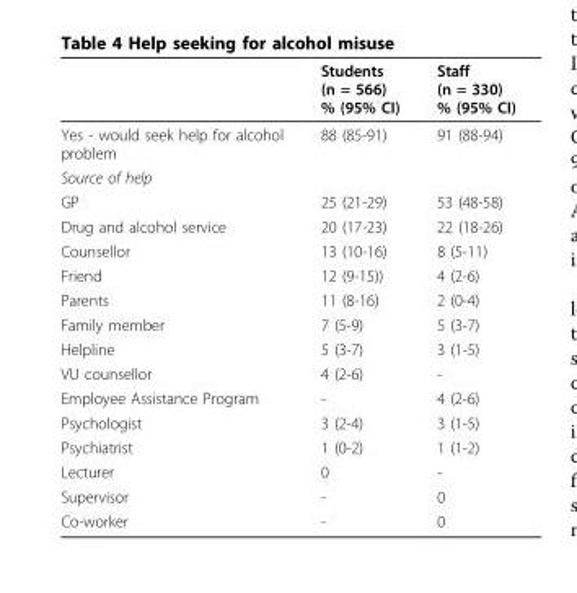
<table><thead><tr><td></td><td>Students (n = 566) % (95% CI)</td><td>Staff (n = 330) % (95% CI)</td></tr></thead><tbody><tr><td>Yes - would seek help for alcohol problem</td><td>88 (85-91)</td><td>91 (88-94)</td></tr><tr><td colspan="3">Source of help</td></tr><tr><td>GP</td><td>25 (21-29)</td><td>53 (48-58)</td></tr><tr><td>Drug and alcohol service</td><td>20 (17-23)</td><td>22 (18-26)</td></tr><tr><td>Counsellor</td><td>13 (10-16)</td><td>8 (5-11)</td></tr><tr><td>Friend</td><td>12 (9-15))</td><td>4 (2-6)</td></tr><tr><td>Parents</td><td>11 (8-16)</td><td>2 (0-4)</td></tr><tr><td>Family member</td><td>7 (5-9)</td><td>5 (3-7)</td></tr><tr><td>Helpline</td><td>5 (3-7)</td><td>3 (1-5)</td></tr><tr><td>VU counsellor</td><td>4 (2-6)</td><td>-</td></tr><tr><td>Employee Assistance Program</td><td>-</td><td>4 (2-6)</td></tr><tr><td>Psychologist</td><td>3 (2-4)</td><td>3 (1-5)</td></tr><tr><td>Psychiatrist</td><td>1 (0-2)</td><td>1 (1-2)</td></tr><tr><td>Lecturer</td><td>0</td><td>-</td></tr><tr><td>Supervisor</td><td>-</td><td>0</td></tr><tr><td>Co-worker</td><td>-</td><td>0</td></tr></tbody></table>